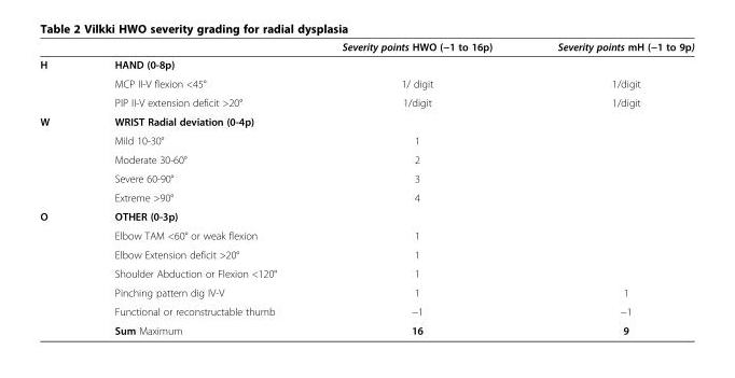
<table><thead><tr><td></td><td></td><td>Severity points HWO (−1 to 16p)</td><td>Severity points mH (−1 to 9p)</td></tr></thead><tbody><tr><td rowspan="3">H</td><td>HAND (0-8p)</td><td></td><td></td></tr><tr><td>MCP II-V flexion &lt;45°</td><td>1/ digit</td><td>1/digit</td></tr><tr><td>PIP II-V extension deficit &gt;20°</td><td>1/digit</td><td>1/digit</td></tr><tr><td rowspan="5">W</td><td>WRIST Radial deviation (0-4p)</td><td></td><td></td></tr><tr><td>Mild 10-30°</td><td>1</td><td></td></tr><tr><td>Moderate 30-60°</td><td>2</td><td></td></tr><tr><td>Severe 60-90°</td><td>3</td><td></td></tr><tr><td>Extreme &gt;90°</td><td>4</td><td></td></tr><tr><td rowspan="7">O</td><td>OTHER (0-3p)</td><td></td><td></td></tr><tr><td>Elbow TAM &lt;60° or weak flexion</td><td>1</td><td></td></tr><tr><td>Elbow Extension deficit &gt;20°</td><td>1</td><td></td></tr><tr><td>Shoulder Abduction or Flexion &lt;120°</td><td>1</td><td></td></tr><tr><td>Pinching pattern dig IV-V</td><td>1</td><td>1</td></tr><tr><td>Functional or reconstructable thumb</td><td>−1</td><td>−1</td></tr><tr><td>Sum Maximum</td><td>16</td><td>9</td></tr></tbody></table>